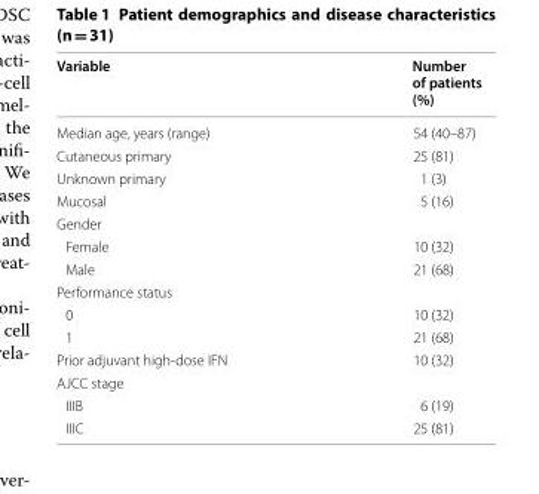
<table><thead><tr><td>Variable</td><td>Number of patients (%)</td></tr></thead><tbody><tr><td>Median age, years (range)</td><td>54 (40–87)</td></tr><tr><td>Cutaneous primary</td><td>25 (81)</td></tr><tr><td>Unknown primary</td><td>1 (3)</td></tr><tr><td>Mucosal</td><td>5 (16)</td></tr><tr><td colspan="2">Gender</td></tr><tr><td>Female</td><td>10 (32)</td></tr><tr><td>Male</td><td>21 (68)</td></tr><tr><td colspan="2">Performance status</td></tr><tr><td>0</td><td>10 (32)</td></tr><tr><td>1</td><td>21 (68)</td></tr><tr><td>Prior adjuvant high-dose IFN</td><td>10 (32)</td></tr><tr><td colspan="2">AJCC stage</td></tr><tr><td>IIIB</td><td>6 (19)</td></tr><tr><td>IIIC</td><td>25 (81)</td></tr></tbody></table>